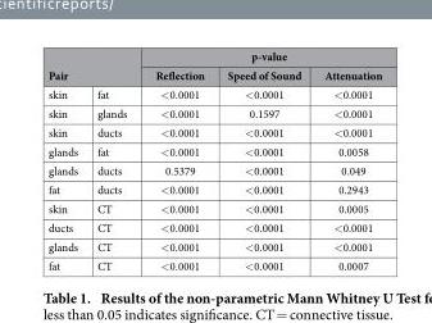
<table><thead><tr><td></td><td></td><td colspan="3">p-value</td></tr><tr><td colspan="2">Pair</td><td>Reflection</td><td>Speed of Sound</td><td>Attenuation</td></tr></thead><tbody><tr><td>skin</td><td>fat</td><td>&lt; 0.0001</td><td>&lt; 0.0001</td><td>&lt; 0.0001</td></tr><tr><td>skin</td><td>glands</td><td>&lt; 0.0001</td><td>0.1597</td><td>&lt; 0.0001</td></tr><tr><td>skin</td><td>ducts</td><td>&lt; 0.0001</td><td>&lt; 0.0001</td><td>&lt; 0.0001</td></tr><tr><td>glands</td><td>fat</td><td>&lt; 0.0001</td><td>&lt; 0.0001</td><td>0.0058</td></tr><tr><td>glands</td><td>ducts</td><td>0.5379</td><td>&lt; 0.0001</td><td>0.049</td></tr><tr><td>fat</td><td>ducts</td><td>&lt; 0.0001</td><td>&lt; 0.0001</td><td>0.2943</td></tr><tr><td>skin</td><td>CT</td><td>&lt; 0.0001</td><td>&lt; 0.0001</td><td>0.0005</td></tr><tr><td>ducts</td><td>CT</td><td>&lt; 0.0001</td><td>&lt; 0.0001</td><td>&lt; 0.0001</td></tr><tr><td>glands</td><td>CT</td><td>&lt; 0.0001</td><td>&lt; 0.0001</td><td>&lt; 0.0001</td></tr><tr><td>fat</td><td>CT</td><td>&lt; 0.0001</td><td>&lt; 0.0001</td><td>0.0007</td></tr></tbody></table>